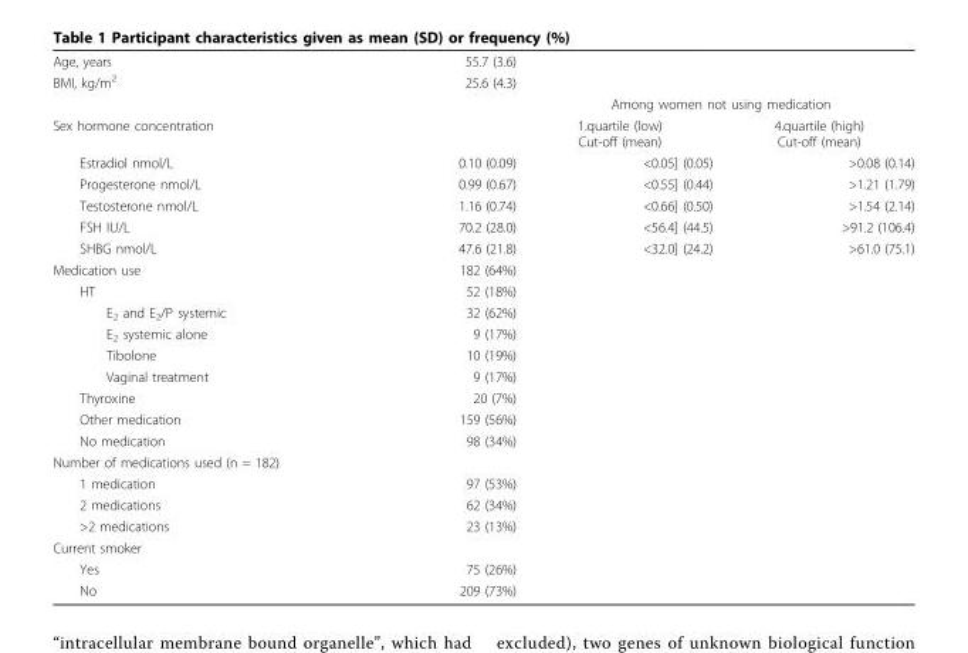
<table><tbody><tr><td>Age, years</td><td>55.7 (3.6)</td><td></td><td></td></tr><tr><td rowspan="2">BMI, kg/m<sup>2</sup></td><td>25.6 (4.3)</td><td></td><td></td></tr><tr><td></td><td colspan="2">Among women not using medication</td></tr><tr><td>Sex hormone concentration</td><td></td><td>1.quartile (low) Cut-off (mean)</td><td>4.quartile (high) Cut-off (mean)</td></tr><tr><td>Estradiol nmol/L</td><td>0.10 (0.09)</td><td>&lt;0.05] (0.05)</td><td>&gt;0.08 (0.14)</td></tr><tr><td>Progesterone nmol/L</td><td>0.99 (0.67)</td><td>&lt;0.55] (0.44)</td><td>&gt;1.21 (1.79)</td></tr><tr><td>Testosterone nmol/L</td><td>1.16 (0.74)</td><td>&lt;0.66] (0.50)</td><td>&gt;1.54 (2.14)</td></tr><tr><td>FSH IU/L</td><td>70.2 (28.0)</td><td>&lt;56.4] (44.5)</td><td>&gt;91.2 (106.4)</td></tr><tr><td>SHBG nmol/L</td><td>47.6 (21.8)</td><td>&lt;32.0] (24.2)</td><td>&gt;61.0 (75.1)</td></tr><tr><td>Medication use</td><td>182 (64%)</td><td></td><td></td></tr><tr><td>HT</td><td>52 (18%)</td><td></td><td></td></tr><tr><td>E<sub>2</sub> and E<sub>2</sub>/P systemic</td><td>32 (62%)</td><td></td><td></td></tr><tr><td>E<sub>2</sub> systemic alone</td><td>9 (17%)</td><td></td><td></td></tr><tr><td>Tibolone</td><td>10 (19%)</td><td></td><td></td></tr><tr><td>Vaginal treatment</td><td>9 (17%)</td><td></td><td></td></tr><tr><td>Thyroxine</td><td>20 (7%)</td><td></td><td></td></tr><tr><td>Other medication</td><td>159 (56%)</td><td></td><td></td></tr><tr><td>No medication</td><td>98 (34%)</td><td></td><td></td></tr><tr><td colspan="4">Number of medications used (n = 182)</td></tr><tr><td>1 medication</td><td>97 (53%)</td><td></td><td></td></tr><tr><td>2 medications</td><td>62 (34%)</td><td></td><td></td></tr><tr><td>&gt;2 medications</td><td>23 (13%)</td><td></td><td></td></tr><tr><td colspan="4">Current smoker</td></tr><tr><td>Yes</td><td>75 (26%)</td><td></td><td></td></tr><tr><td>No</td><td>209 (73%)</td><td></td><td></td></tr></tbody></table>